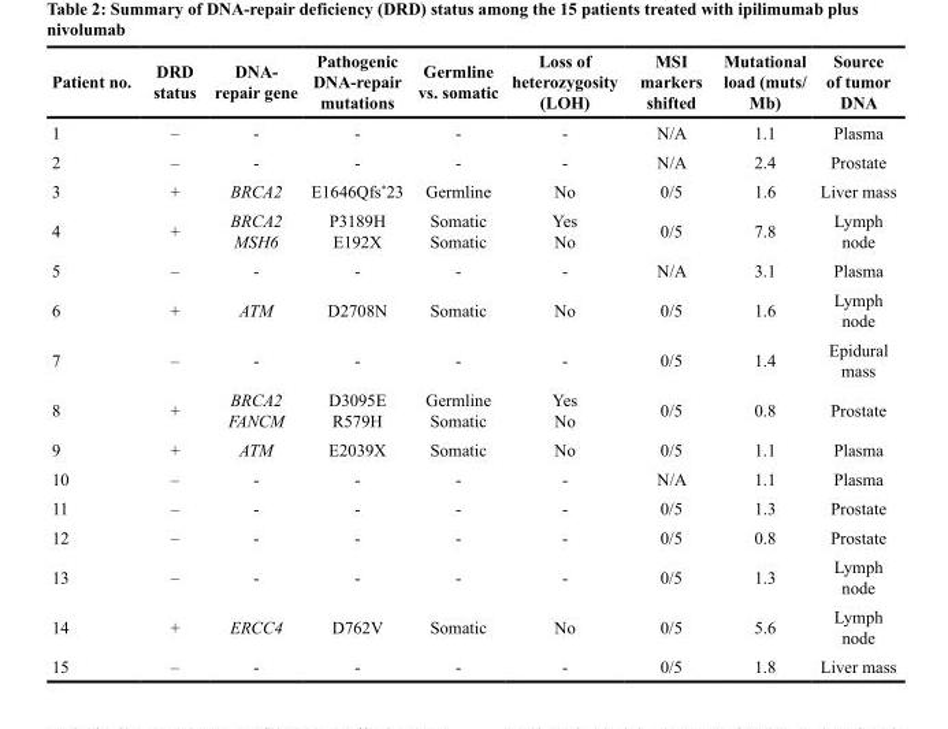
<table><thead><tr><td>Patient no.</td><td>DRD status</td><td>DNA- repair gene</td><td>Pathogenic DNA-repair mutations</td><td>Germline vs. somatic</td><td>Loss of heterozygosity (LOH)</td><td>MSI markers shifted</td><td>Mutational load (muts/ Mb)</td><td>Source of tumor DNA</td></tr></thead><tbody><tr><td>1</td><td>–</td><td>-</td><td>-</td><td>-</td><td>-</td><td>N/A</td><td>1.1</td><td>Plasma</td></tr><tr><td>2</td><td>–</td><td>-</td><td>-</td><td>-</td><td>-</td><td>N/A</td><td>2.4</td><td>Prostate</td></tr><tr><td>3</td><td>+</td><td>BRCA2</td><td>E1646Qfs*23</td><td>Germline</td><td>No</td><td>0/5</td><td>1.6</td><td>Liver mass</td></tr><tr><td>4</td><td>+</td><td>BRCA2 MSH6</td><td>P3189H E192X</td><td>Somatic Somatic</td><td>Yes No</td><td>0/5</td><td>7.8</td><td>Lymph node</td></tr><tr><td>5</td><td>–</td><td>-</td><td>-</td><td>-</td><td>-</td><td>N/A</td><td>3.1</td><td>Plasma</td></tr><tr><td>6</td><td>+</td><td>ATM</td><td>D2708N</td><td>Somatic</td><td>No</td><td>0/5</td><td>1.6</td><td>Lymph node</td></tr><tr><td>7</td><td>–</td><td>-</td><td>-</td><td>-</td><td>-</td><td>0/5</td><td>1.4</td><td>Epidural mass</td></tr><tr><td>8</td><td>+</td><td>BRCA2 FANCM</td><td>D3095E R579H</td><td>Germline Somatic</td><td>Yes No</td><td>0/5</td><td>0.8</td><td>Prostate</td></tr><tr><td>9</td><td>+</td><td>ATM</td><td>E2039X</td><td>Somatic</td><td>No</td><td>0/5</td><td>1.1</td><td>Plasma</td></tr><tr><td>10</td><td>–</td><td>-</td><td>-</td><td>-</td><td>-</td><td>N/A</td><td>1.1</td><td>Plasma</td></tr><tr><td>11</td><td>–</td><td>-</td><td>-</td><td>-</td><td>-</td><td>0/5</td><td>1.3</td><td>Prostate</td></tr><tr><td>12</td><td>–</td><td>-</td><td>-</td><td>-</td><td>-</td><td>0/5</td><td>0.8</td><td>Prostate</td></tr><tr><td>13</td><td>–</td><td>-</td><td>-</td><td>-</td><td>-</td><td>0/5</td><td>1.3</td><td>Lymph node</td></tr><tr><td>14</td><td>+</td><td>ERCC4</td><td>D762V</td><td>Somatic</td><td>No</td><td>0/5</td><td>5.6</td><td>Lymph node</td></tr><tr><td>15</td><td>–</td><td>-</td><td>-</td><td>-</td><td>-</td><td>0/5</td><td>1.8</td><td>Liver mass</td></tr></tbody></table>